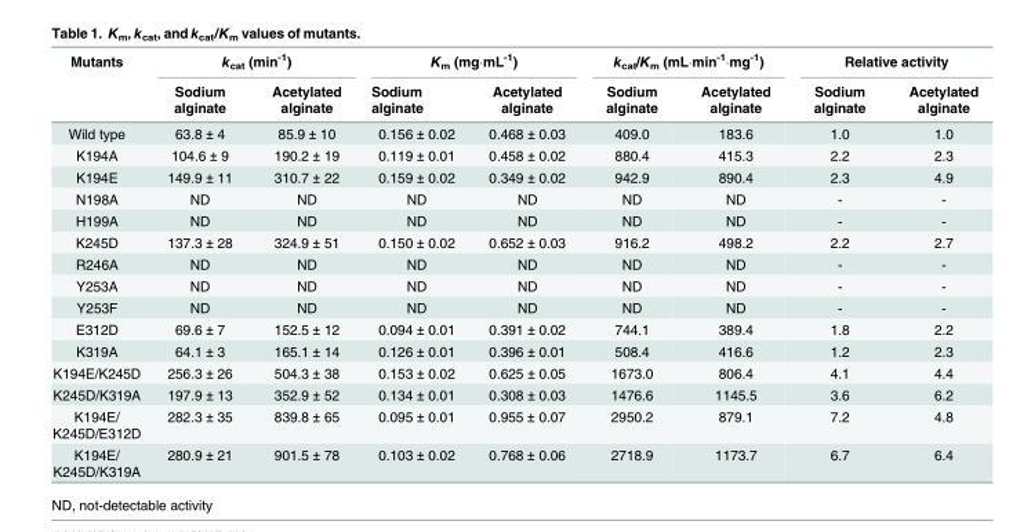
<table><thead><tr><td rowspan="2">Mutants</td><td colspan="2">k<sub>cat</sub> (min<sup>-1</sup>)</td><td colspan="2">K<sub>m</sub> (mg∙mL<sup>-1</sup>)</td><td colspan="2">k<sub>cat</sub>/K<sub>m</sub> (mL∙min<sup>-1</sup>∙mg<sup>-1</sup>)</td><td colspan="2">Relative activity</td></tr><tr><td>Sodium alginate</td><td>Acetylated alginate</td><td>Sodium alginate</td><td>Acetylated alginate</td><td>Sodium alginate</td><td>Acetylated alginate</td><td>Sodium alginate</td><td>Acetylated alginate</td></tr></thead><tbody><tr><td>Wild type</td><td>63.8 ± 4</td><td>85.9 ± 10</td><td>0.156 ± 0.02</td><td>0.468 ± 0.03</td><td>409.0</td><td>183.6</td><td>1.0</td><td>1.0</td></tr><tr><td>K194A</td><td>104.6 ± 9</td><td>190.2 ± 19</td><td>0.119 ± 0.01</td><td>0.458 ± 0.02</td><td>880.4</td><td>415.3</td><td>2.2</td><td>2.3</td></tr><tr><td>K194E</td><td>149.9 ± 11</td><td>310.7 ± 22</td><td>0.159 ± 0.02</td><td>0.349 ± 0.02</td><td>942.9</td><td>890.4</td><td>2.3</td><td>4.9</td></tr><tr><td>N198A</td><td>ND</td><td>ND</td><td>ND</td><td>ND</td><td>ND</td><td>ND</td><td>-</td><td>-</td></tr><tr><td>H199A</td><td>ND</td><td>ND</td><td>ND</td><td>ND</td><td>ND</td><td>ND</td><td>-</td><td>-</td></tr><tr><td>K245D</td><td>137.3 ± 28</td><td>324.9 ± 51</td><td>0.150 ± 0.02</td><td>0.652 ± 0.03</td><td>916.2</td><td>498.2</td><td>2.2</td><td>2.7</td></tr><tr><td>R246A</td><td>ND</td><td>ND</td><td>ND</td><td>ND</td><td>ND</td><td>ND</td><td>-</td><td>-</td></tr><tr><td>Y253A</td><td>ND</td><td>ND</td><td>ND</td><td>ND</td><td>ND</td><td>ND</td><td>-</td><td>-</td></tr><tr><td>Y253F</td><td>ND</td><td>ND</td><td>ND</td><td>ND</td><td>ND</td><td>ND</td><td>-</td><td>-</td></tr><tr><td>E312D</td><td>69.6 ± 7</td><td>152.5 ± 12</td><td>0.094 ± 0.01</td><td>0.391 ± 0.02</td><td>744.1</td><td>389.4</td><td>1.8</td><td>2.2</td></tr><tr><td>K319A</td><td>64.1 ± 3</td><td>165.1 ± 14</td><td>0.126 ± 0.01</td><td>0.396 ± 0.01</td><td>508.4</td><td>416.6</td><td>1.2</td><td>2.3</td></tr><tr><td>K194E/K245D</td><td>256.3 ± 26</td><td>504.3 ± 38</td><td>0.153 ± 0.02</td><td>0.625 ± 0.05</td><td>1673.0</td><td>806.4</td><td>4.1</td><td>4.4</td></tr><tr><td>K245D/K319A</td><td>197.9 ± 13</td><td>352.9 ± 52</td><td>0.134 ± 0.01</td><td>0.308 ± 0.03</td><td>1476.6</td><td>1145.5</td><td>3.6</td><td>6.2</td></tr><tr><td>K194E/ K245D/E312D</td><td>282.3 ± 35</td><td>839.8 ± 65</td><td>0.095 ± 0.01</td><td>0.955 ± 0.07</td><td>2950.2</td><td>879.1</td><td>7.2</td><td>4.8</td></tr><tr><td>K194E/ K245D/K319A</td><td>280.9 ± 21</td><td>901.5 ± 78</td><td>0.103 ± 0.02</td><td>0.768 ± 0.06</td><td>2718.9</td><td>1173.7</td><td>6.7</td><td>6.4</td></tr></tbody></table>